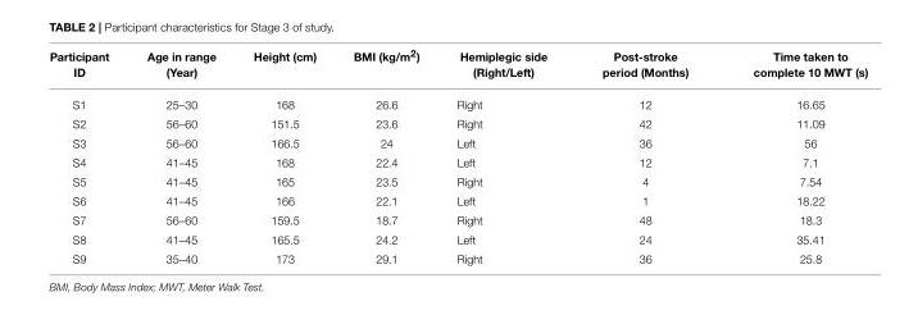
<table><thead><tr><td>Participant ID</td><td>Age in range (Year)</td><td>Height (cm)</td><td>BMI (kg/m<sup>2</sup>)</td><td>Hemiplegic side (Right/Left)</td><td>Post-stroke period (Months)</td><td>Time taken to complete 10 MWT (s)</td></tr></thead><tbody><tr><td>S1</td><td>25–30</td><td>168</td><td>26.6</td><td>Right</td><td>12</td><td>16.65</td></tr><tr><td>S2</td><td>56–60</td><td>151.5</td><td>23.6</td><td>Right</td><td>42</td><td>11.09</td></tr><tr><td>S3</td><td>56–60</td><td>166.5</td><td>24</td><td>Left</td><td>36</td><td>56</td></tr><tr><td>S4</td><td>41–45</td><td>168</td><td>22.4</td><td>Left</td><td>12</td><td>7.1</td></tr><tr><td>S5</td><td>41–45</td><td>165</td><td>23.5</td><td>Right</td><td>4</td><td>7.54</td></tr><tr><td>S6</td><td>41–45</td><td>166</td><td>22.1</td><td>Left</td><td>1</td><td>18.22</td></tr><tr><td>S7</td><td>56–60</td><td>159.5</td><td>18.7</td><td>Right</td><td>48</td><td>18.3</td></tr><tr><td>S8</td><td>41–45</td><td>165.5</td><td>24.2</td><td>Left</td><td>24</td><td>35.41</td></tr><tr><td>S9</td><td>35–40</td><td>173</td><td>29.1</td><td>Right</td><td>36</td><td>25.8</td></tr></tbody></table>